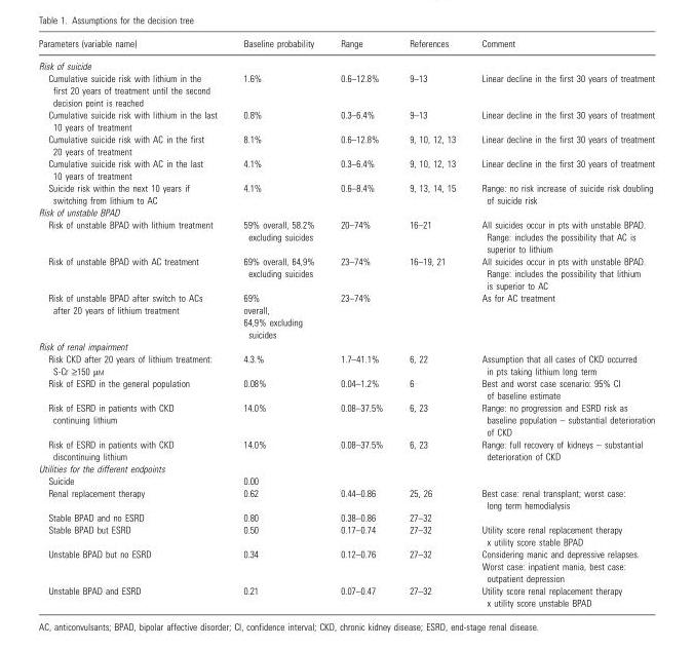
<table><thead><tr><td>Parameters (variable name)</td><td>Baseline probability</td><td>Range</td><td>References</td><td>Comment</td></tr></thead><tbody><tr><td colspan="5">Risk of suicide</td></tr><tr><td>Cumulative suicide risk with lithium in the first 20 years of treatment until the second decision point is reached</td><td>1.6%</td><td>0.6–12.8%</td><td>9–13</td><td>Linear decline in the first 30 years of treatment</td></tr><tr><td>Cumulative suicide risk with lithium in the last 10 years of treatment</td><td>0.8%</td><td>0.3–6.4%</td><td>9–13</td><td>Linear decline in the first 30 years of treatment</td></tr><tr><td>Cumulative suicide risk with AC in the first 20 years of treatment</td><td>8.1%</td><td>0.6–12.8%</td><td>9, 10, 12, 13</td><td>Linear decline in the first 30 years of treatment</td></tr><tr><td>Cumulative suicide risk with AC in the last 10 years of treatment</td><td>4.1%</td><td>0.3–6.4%</td><td>9, 10, 12, 13</td><td>Linear decline in the first 30 years of treatment</td></tr><tr><td>Suicide risk within the next 10 years if switching from lithium to AC</td><td>4.1%</td><td>0.6–8.4%</td><td>9, 13, 14, 15</td><td>Range: no risk increase of suicide risk doubling of suicide risk</td></tr><tr><td colspan="5">Risk of unstable BPAD</td></tr><tr><td>Risk of unstable BPAD with lithium treatment</td><td>59% overall, 58.2% excluding suicides</td><td>20–74%</td><td>16–21</td><td>All suicides occur in pts with unstable BPAD. Range: includes the possibility that AC is superior to lithium</td></tr><tr><td>Risk of unstable BPAD with AC treatment</td><td>69% overall, 64,9% excluding suicides</td><td>23–74%</td><td>16–19, 21</td><td>All suicides occur in pts with unstable BPAD. Range: includes the possibility that lithium is superior to AC</td></tr><tr><td>Risk of unstable BPAD after switch to ACs after 20 years of lithium treatment</td><td>69% overall, 64,9% excluding suicides</td><td>23–74%</td><td></td><td>As for AC treatment</td></tr><tr><td colspan="5">Risk of renal impairment</td></tr><tr><td>Risk CKD after 20 years of lithium treatment: S-Cr ‡150 lM</td><td>4.3.%</td><td>1.7–41.1%</td><td>6, 22</td><td>Assumption that all cases of CKD occurred in pts taking lithium long term</td></tr><tr><td>Risk of ESRD in the general population</td><td>0.08%</td><td>0.04–1.2%</td><td>6</td><td>Best and worst case scenario: 95% CI of baseline estimate</td></tr><tr><td>Risk of ESRD in patients with CKD continuing lithium</td><td>14.0%</td><td>0.08–37.5%</td><td>6, 23</td><td>Range: no progression and ESRD risk as baseline population – substantial deterioration of CKD</td></tr><tr><td>Risk of ESRD in patients with CKD discontinuing lithium</td><td>14.0%</td><td>0.08–37.5%</td><td>6, 23</td><td>Range: full recovery of kidneys – substantial deterioration of CKD</td></tr><tr><td colspan="5">Utilities for the different endpoints</td></tr><tr><td>Suicide</td><td>0.00</td><td></td><td></td><td></td></tr><tr><td>Renal replacement therapy</td><td>0.62</td><td>0.44–0.86</td><td>25, 26</td><td>Best case: renal transplant; worst case: long term hemodialysis</td></tr><tr><td>Stable BPAD and no ESRD</td><td>0.80</td><td>0.38–0.86</td><td>27–32</td><td></td></tr><tr><td>Stable BPAD but ESRD</td><td>0.50</td><td>0.17–0.74</td><td>27–32</td><td>Utility score renal replacement therapy x utility score stable BPAD</td></tr><tr><td>Unstable BPAD but no ESRD</td><td>0.34</td><td>0.12–0.76</td><td>27–32</td><td>Considering manic and depressive relapses. Worst case: inpatient mania, best case: outpatient depression</td></tr><tr><td>Unstable BPAD and ESRD</td><td>0.21</td><td>0.07–0.47</td><td>27–32</td><td>Utility score renal replacement therapy x utility score unstable BPAD</td></tr></tbody></table>